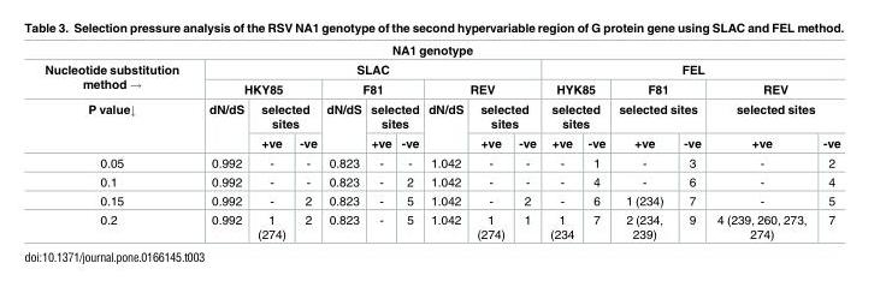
<table><thead><tr><td colspan="16">NA1 genotype</td></tr><tr><td rowspan="4">Nucleotide substitution method → P value↓</td><td colspan="9">SLAC</td><td colspan="6">FEL</td></tr><tr><td colspan="3">HKY85</td><td colspan="3">F81</td><td colspan="3">REV</td><td rowspan="2" colspan="2">HYK85 selected sites</td><td rowspan="2" colspan="2">F81 selected sites</td><td rowspan="2" colspan="2">REV selected sites</td></tr><tr><td rowspan="2">dN/dS</td><td colspan="2">selected sites</td><td rowspan="2">dN/dS</td><td colspan="2">selected sites</td><td rowspan="2">dN/dS</td><td colspan="2">selected sites</td></tr><tr><td>+ve</td><td>-ve</td><td>+ve</td><td>-ve</td><td>+ve</td><td>-ve</td><td>+ve</td><td>-ve</td><td>+ve</td><td>-ve</td><td>+ve</td><td>-ve</td></tr></thead><tbody><tr><td>0.05</td><td>0.992</td><td>-</td><td>-</td><td>0.823</td><td>-</td><td>-</td><td>1.042</td><td>-</td><td>-</td><td>-</td><td>1</td><td>-</td><td>3</td><td>-</td><td>2</td></tr><tr><td>0.1</td><td>0.992</td><td>-</td><td>-</td><td>0.823</td><td>-</td><td>2</td><td>1.042</td><td>-</td><td>-</td><td>-</td><td>4</td><td>-</td><td>6</td><td>-</td><td>4</td></tr><tr><td>0.15</td><td>0.992</td><td>-</td><td>2</td><td>0.823</td><td>-</td><td>5</td><td>1.042</td><td>-</td><td>2</td><td>-</td><td>6</td><td>1 (234)</td><td>7</td><td>-</td><td>5</td></tr><tr><td>0.2</td><td>0.992</td><td>1 (274)</td><td>2</td><td>0.823</td><td>-</td><td>5</td><td>1.042</td><td>1 (274)</td><td>1</td><td>1 (234</td><td>7</td><td>2 (234, 239)</td><td>9</td><td>4 (239, 260, 273, 274)</td><td>7</td></tr></tbody></table>